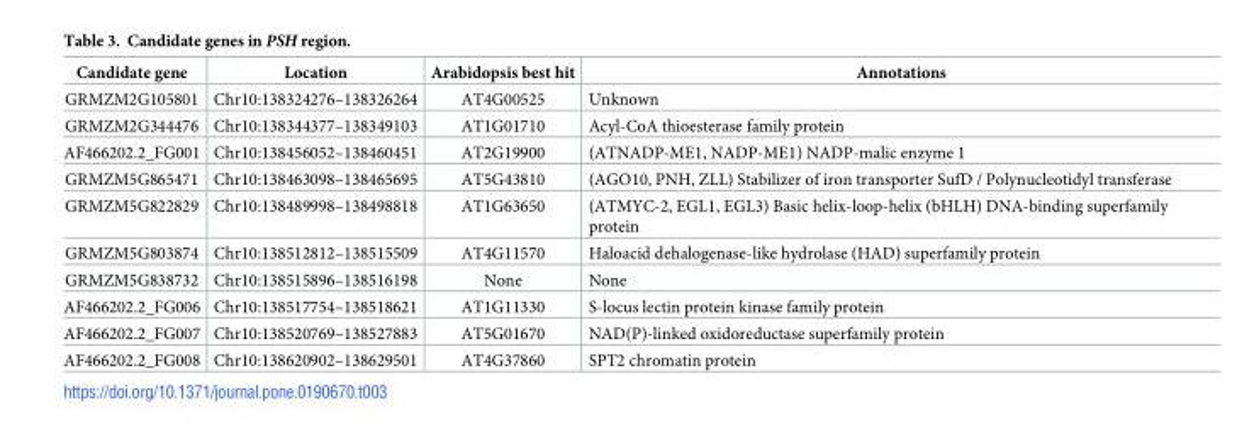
<table><thead><tr><td>Candidate gene</td><td>Location</td><td>Arabidopsis best hit</td><td>Annotations</td></tr></thead><tbody><tr><td>GRMZM2G105801</td><td>Chr10:138324276–138326264</td><td>AT4G00525</td><td>Unknown</td></tr><tr><td>GRMZM2G344476</td><td>Chr10:138344377–138349103</td><td>AT1G01710</td><td>Acyl-CoA thioesterase family protein</td></tr><tr><td>AF466202.2_FG001</td><td>Chr10:138456052–138460451</td><td>AT2G19900</td><td>(ATNADP-ME1, NADP-ME1) NADP-malic enzyme 1</td></tr><tr><td>GRMZM5G865471</td><td>Chr10:138463098–138465695</td><td>AT5G43810</td><td>(AGO10, PNH, ZLL) Stabilizer of iron transporter SufD / Polynucleotidyl transferase</td></tr><tr><td>GRMZM5G822829</td><td>Chr10:138489998–138498818</td><td>AT1G63650</td><td>(ATMYC-2, EGL1, EGL3) Basic helix-loop-helix (bHLH) DNA-binding superfamily protein</td></tr><tr><td>GRMZM5G803874</td><td>Chr10:138512812–138515509</td><td>AT4G11570</td><td>Haloacid dehalogenase-like hydrolase (HAD) superfamily protein</td></tr><tr><td>GRMZM5G838732</td><td>Chr10:138515896–138516198</td><td>None</td><td>None</td></tr><tr><td>AF466202.2_FG006</td><td>Chr10:138517754–138518621</td><td>AT1G11330</td><td>S-locus lectin protein kinase family protein</td></tr><tr><td>AF466202.2_FG007</td><td>Chr10:138520769–138527883</td><td>AT5G01670</td><td>NAD(P)-linked oxidoreductase superfamily protein</td></tr><tr><td>AF466202.2_FG008</td><td>Chr10:138620902–138629501</td><td>AT4G37860</td><td>SPT2 chromatin protein</td></tr></tbody></table>